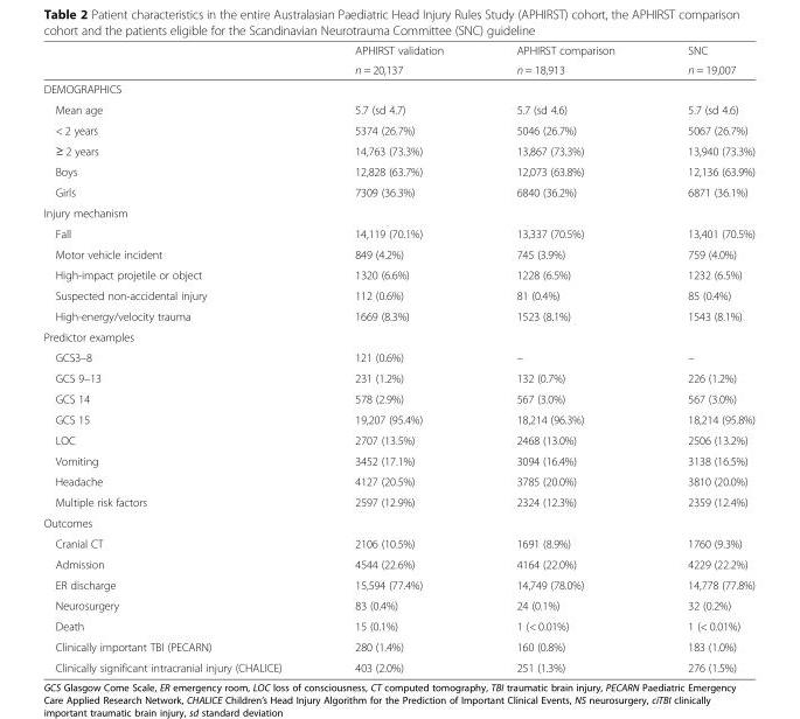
<table><thead><tr><td rowspan="2"></td><td rowspan="2">APHIRST validation n = 20,137</td><td rowspan="2">APHIRST comparison n = 18,913</td><td rowspan="2">SNC n = 19,007</td></tr><tr></tr></thead><tbody><tr><td colspan="4">DEMOGRAPHICS</td></tr><tr><td>Mean age</td><td>5.7 (sd 4.7)</td><td>5.7 (sd 4.6)</td><td>5.7 (sd 4.6)</td></tr><tr><td>&lt; 2 years</td><td>5374 (26.7%)</td><td>5046 (26.7%)</td><td>5067 (26.7%)</td></tr><tr><td>≥ 2 years</td><td>14,763 (73.3%)</td><td>13,867 (73.3%)</td><td>13,940 (73.3%)</td></tr><tr><td>Boys</td><td>12,828 (63.7%)</td><td>12,073 (63.8%)</td><td>12,136 (63.9%)</td></tr><tr><td>Girls</td><td>7309 (36.3%)</td><td>6840 (36.2%)</td><td>6871 (36.1%)</td></tr><tr><td colspan="4">Injury mechanism</td></tr><tr><td>Fall</td><td>14,119 (70.1%)</td><td>13,337 (70.5%)</td><td>13,401 (70.5%)</td></tr><tr><td>Motor vehicle incident</td><td>849 (4.2%)</td><td>745 (3.9%)</td><td>759 (4.0%)</td></tr><tr><td>High-impact projetile or object</td><td>1320 (6.6%)</td><td>1228 (6.5%)</td><td>1232 (6.5%)</td></tr><tr><td>Suspected non-accidental injury</td><td>112 (0.6%)</td><td>81 (0.4%)</td><td>85 (0.4%)</td></tr><tr><td>High-energy/velocity trauma</td><td>1669 (8.3%)</td><td>1523 (8.1%)</td><td>1543 (8.1%)</td></tr><tr><td colspan="4">Predictor examples</td></tr><tr><td>GCS3–8</td><td>121 (0.6%)</td><td>–</td><td>–</td></tr><tr><td>GCS 9–13</td><td>231 (1.2%)</td><td>132 (0.7%)</td><td>226 (1.2%)</td></tr><tr><td>GCS 14</td><td>578 (2.9%)</td><td>567 (3.0%)</td><td>567 (3.0%)</td></tr><tr><td>GCS 15</td><td>19,207 (95.4%)</td><td>18,214 (96.3%)</td><td>18,214 (95.8%)</td></tr><tr><td>LOC</td><td>2707 (13.5%)</td><td>2468 (13.0%)</td><td>2506 (13.2%)</td></tr><tr><td>Vomiting</td><td>3452 (17.1%)</td><td>3094 (16.4%)</td><td>3138 (16.5%)</td></tr><tr><td>Headache</td><td>4127 (20.5%)</td><td>3785 (20.0%)</td><td>3810 (20.0%)</td></tr><tr><td>Multiple risk factors</td><td>2597 (12.9%)</td><td>2324 (12.3%)</td><td>2359 (12.4%)</td></tr><tr><td colspan="4">Outcomes</td></tr><tr><td>Cranial CT</td><td>2106 (10.5%)</td><td>1691 (8.9%)</td><td>1760 (9.3%)</td></tr><tr><td>Admission</td><td>4544 (22.6%)</td><td>4164 (22.0%)</td><td>4229 (22.2%)</td></tr><tr><td>ER discharge</td><td>15,594 (77.4%)</td><td>14,749 (78.0%)</td><td>14,778 (77.8%)</td></tr><tr><td>Neurosurgery</td><td>83 (0.4%)</td><td>24 (0.1%)</td><td>32 (0.2%)</td></tr><tr><td>Death</td><td>15 (0.1%)</td><td>1 (&lt; 0.01%)</td><td>1 (&lt; 0.01%)</td></tr><tr><td>Clinically important TBI (PECARN)</td><td>280 (1.4%)</td><td>160 (0.8%)</td><td>183 (1.0%)</td></tr><tr><td>Clinically significant intracranial injury (CHALICE)</td><td>403 (2.0%)</td><td>251 (1.3%)</td><td>276 (1.5%)</td></tr></tbody></table>